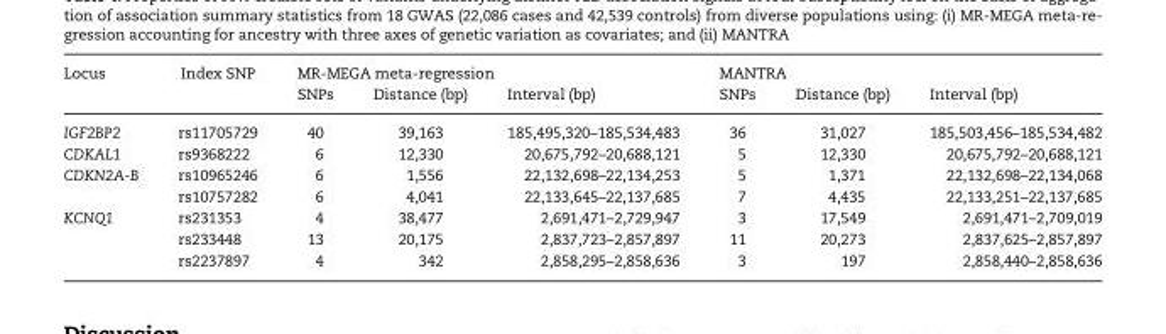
<table><thead><tr><td rowspan="2">Locus</td><td rowspan="2">Index SNP</td><td colspan="3">MR-MEGA meta-regression</td><td colspan="3">MANTRA</td></tr><tr><td>SNPs</td><td>Distance (bp)</td><td>Interval (bp)</td><td>SNPs</td><td>Distance (bp)</td><td>Interval (bp)</td></tr></thead><tbody><tr><td>IGF2BP2</td><td>rs11705729</td><td>40</td><td>39,163</td><td>185,495,320–185,534,483</td><td>36</td><td>31,027</td><td>185,503,456–185,534,482</td></tr><tr><td>CDKAL1</td><td>rs9368222</td><td>6</td><td>12,330</td><td>20,675,792–20,688,121</td><td>5</td><td>12,330</td><td>20,675,792–20,688,121</td></tr><tr><td rowspan="2">CDKN2A-B</td><td>rs10965246</td><td>6</td><td>1,556</td><td>22,132,698–22,134,253</td><td>5</td><td>1,371</td><td>22,132,698–22,134,068</td></tr><tr><td>rs10757282</td><td>6</td><td>4,041</td><td>22,133,645–22,137,685</td><td>7</td><td>4,435</td><td>22,133,251–22,137,685</td></tr><tr><td rowspan="3">KCNQ1</td><td>rs231353</td><td>4</td><td>38,477</td><td>2,691,471–2,729,947</td><td>3</td><td>17,549</td><td>2,691,471–2,709,019</td></tr><tr><td>rs233448</td><td>13</td><td>20,175</td><td>2,837,723–2,857,897</td><td>11</td><td>20,273</td><td>2,837,625–2,857,897</td></tr><tr><td>rs2237897</td><td>4</td><td>342</td><td>2,858,295–2,858,636</td><td>3</td><td>197</td><td>2,858,440–2,858,636</td></tr></tbody></table>